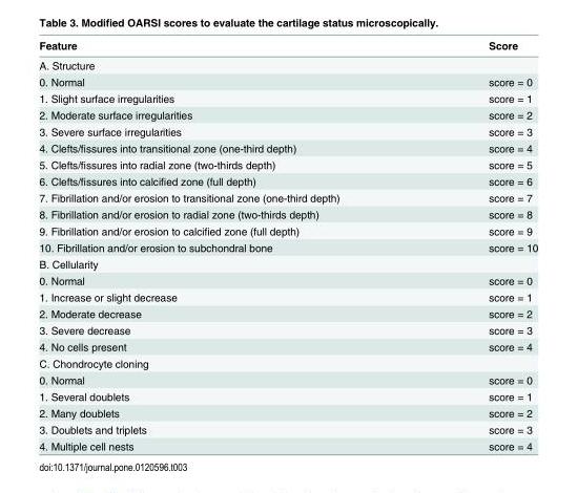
<table><thead><tr><td>Feature</td><td>Score</td></tr></thead><tbody><tr><td colspan="2">A. Structure</td></tr><tr><td>0. Normal</td><td>score = 0</td></tr><tr><td>1. Slight surface irregularities</td><td>score = 1</td></tr><tr><td>2. Moderate surface irregularities</td><td>score = 2</td></tr><tr><td>3. Severe surface irregularities</td><td>score = 3</td></tr><tr><td>4. Clefts/fissures into transitional zone (one-third depth)</td><td>score = 4</td></tr><tr><td>5. Clefts/fissures into radial zone (two-thirds depth)</td><td>score = 5</td></tr><tr><td>6. Clefts/fissures into calcified zone (full depth)</td><td>score = 6</td></tr><tr><td>7. Fibrillation and/or erosion to transitional zone (one-third depth)</td><td>score = 7</td></tr><tr><td>8. Fibrillation and/or erosion to radial zone (two-thirds depth)</td><td>score = 8</td></tr><tr><td>9. Fibrillation and/or erosion to calcified zone (full depth)</td><td>score = 9</td></tr><tr><td>10. Fibrillation and/or erosion to subchondral bone</td><td>score = 10</td></tr><tr><td colspan="2">B. Cellularity</td></tr><tr><td>0. Normal</td><td>score = 0</td></tr><tr><td>1. Increase or slight decrease</td><td>score = 1</td></tr><tr><td>2. Moderate decrease</td><td>score = 2</td></tr><tr><td>3. Severe decrease</td><td>score = 3</td></tr><tr><td>4. No cells present</td><td>score = 4</td></tr><tr><td colspan="2">C. Chondrocyte cloning</td></tr><tr><td>0. Normal</td><td>score = 0</td></tr><tr><td>1. Several doublets</td><td>score = 1</td></tr><tr><td>2. Many doublets</td><td>score = 2</td></tr><tr><td>3. Doublets and triplets</td><td>score = 3</td></tr><tr><td>4. Multiple cell nests</td><td>score = 4</td></tr></tbody></table>